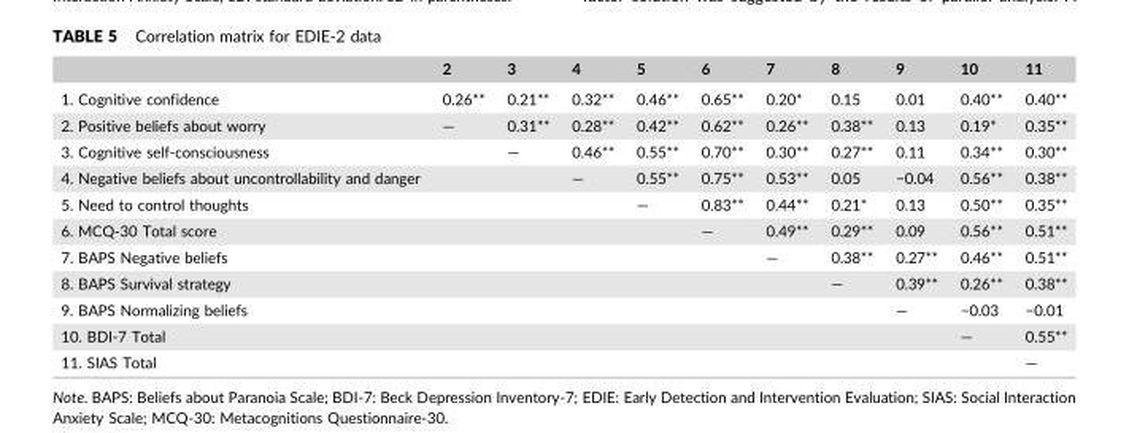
<table><thead><tr><td></td><td>2</td><td>3</td><td>4</td><td>5</td><td>6</td><td>7</td><td>8</td><td>9</td><td>10</td><td>11</td></tr></thead><tbody><tr><td>1. Cognitive confidence</td><td>0.26**</td><td>0.21**</td><td>0.32**</td><td>0.46**</td><td>0.65**</td><td>0.20*</td><td>0.15</td><td>0.01</td><td>0.40**</td><td>0.40**</td></tr><tr><td>2. Positive beliefs about worry</td><td>—</td><td>0.31**</td><td>0.28**</td><td>0.42**</td><td>0.62**</td><td>0.26**</td><td>0.38**</td><td>0.13</td><td>0.19*</td><td>0.35**</td></tr><tr><td>3. Cognitive self‐consciousness</td><td></td><td>—</td><td>0.46**</td><td>0.55**</td><td>0.70**</td><td>0.30**</td><td>0.27**</td><td>0.11</td><td>0.34**</td><td>0.30**</td></tr><tr><td>4. Negative beliefs about uncontrollability and danger</td><td></td><td></td><td>—</td><td>0.55**</td><td>0.75**</td><td>0.53**</td><td>0.05</td><td>−0.04</td><td>0.56**</td><td>0.38**</td></tr><tr><td>5. Need to control thoughts</td><td></td><td></td><td></td><td>—</td><td>0.83**</td><td>0.44**</td><td>0.21*</td><td>0.13</td><td>0.50**</td><td>0.35**</td></tr><tr><td>6. MCQ‐30 Total score</td><td></td><td></td><td></td><td></td><td>—</td><td>0.49**</td><td>0.29**</td><td>0.09</td><td>0.56**</td><td>0.51**</td></tr><tr><td>7. BAPS Negative beliefs</td><td></td><td></td><td></td><td></td><td></td><td>—</td><td>0.38**</td><td>0.27**</td><td>0.46**</td><td>0.51**</td></tr><tr><td>8. BAPS Survival strategy</td><td></td><td></td><td></td><td></td><td></td><td></td><td>—</td><td>0.39**</td><td>0.26**</td><td>0.38**</td></tr><tr><td>9. BAPS Normalizing beliefs</td><td></td><td></td><td></td><td></td><td></td><td></td><td></td><td>—</td><td>−0.03</td><td>−0.01</td></tr><tr><td>10. BDI‐7 Total</td><td></td><td></td><td></td><td></td><td></td><td></td><td></td><td></td><td>—</td><td>0.55**</td></tr><tr><td>11. SIAS Total</td><td></td><td></td><td></td><td></td><td></td><td></td><td></td><td></td><td></td><td>—</td></tr></tbody></table>